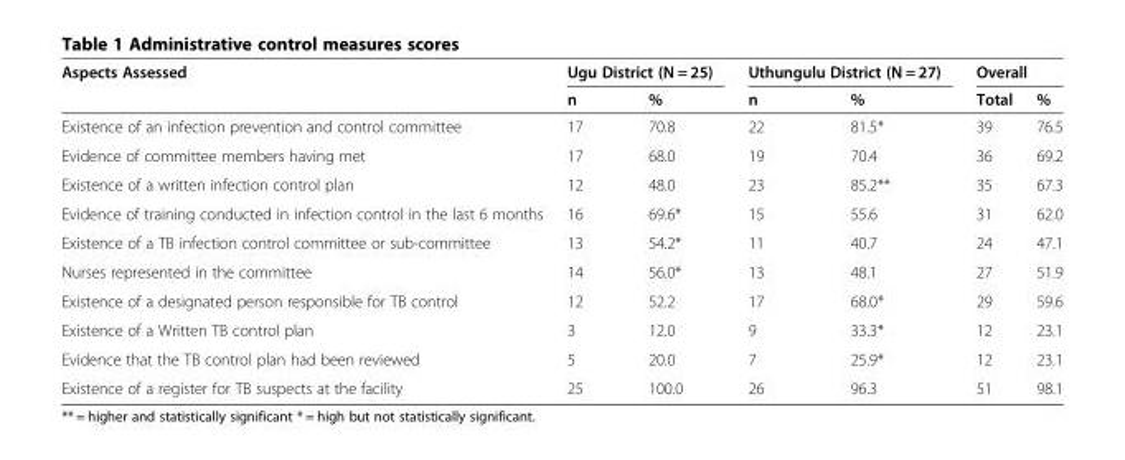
<table><thead><tr><td rowspan="2">Aspects Assessed</td><td colspan="2">Ugu District (N = 25)</td><td colspan="2">Uthungulu District (N = 27)</td><td colspan="2">Overall</td></tr><tr><td>n</td><td>%</td><td>n</td><td>%</td><td>Total</td><td>%</td></tr></thead><tbody><tr><td>Existence of an infection prevention and control committee</td><td>17</td><td>70.8</td><td>22</td><td>81.5*</td><td>39</td><td>76.5</td></tr><tr><td>Evidence of committee members having met</td><td>17</td><td>68.0</td><td>19</td><td>70.4</td><td>36</td><td>69.2</td></tr><tr><td>Existence of a written infection control plan</td><td>12</td><td>48.0</td><td>23</td><td>85.2**</td><td>35</td><td>67.3</td></tr><tr><td>Evidence of training conducted in infection control in the last 6 months</td><td>16</td><td>69.6*</td><td>15</td><td>55.6</td><td>31</td><td>62.0</td></tr><tr><td>Existence of a TB infection control committee or sub-committee</td><td>13</td><td>54.2*</td><td>11</td><td>40.7</td><td>24</td><td>47.1</td></tr><tr><td>Nurses represented in the committee</td><td>14</td><td>56.0*</td><td>13</td><td>48.1</td><td>27</td><td>51.9</td></tr><tr><td>Existence of a designated person responsible for TB control</td><td>12</td><td>52.2</td><td>17</td><td>68.0*</td><td>29</td><td>59.6</td></tr><tr><td>Existence of a Written TB control plan</td><td>3</td><td>12.0</td><td>9</td><td>33.3*</td><td>12</td><td>23.1</td></tr><tr><td>Evidence that the TB control plan had been reviewed</td><td>5</td><td>20.0</td><td>7</td><td>25.9*</td><td>12</td><td>23.1</td></tr><tr><td>Existence of a register for TB suspects at the facility</td><td>25</td><td>100.0</td><td>26</td><td>96.3</td><td>51</td><td>98.1</td></tr></tbody></table>